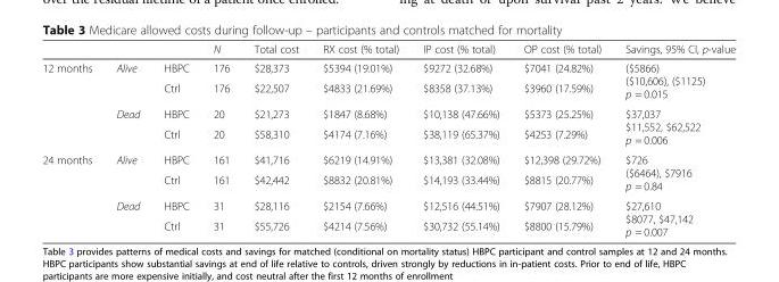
<table><thead><tr><td></td><td></td><td></td><td>N</td><td>Total cost</td><td>RX cost (% total)</td><td>IP cost (% total)</td><td>OP cost (% total)</td><td>Savings, 95% CI, p-value</td></tr></thead><tbody><tr><td rowspan="4">12 months</td><td rowspan="2">Alive</td><td>HBPC</td><td>176</td><td>$28,373</td><td>$5394 (19.01%)</td><td>$9272 (32.68%)</td><td>$7041 (24.82%)</td><td rowspan="2">($5866) ($10,606), ($1125) p = 0.015</td></tr><tr><td>Ctrl</td><td>176</td><td>$22,507</td><td>$4833 (21.69%)</td><td>$8358 (37.13%)</td><td>$3960 (17.59%)</td></tr><tr><td rowspan="2">Dead</td><td>HBPC</td><td>20</td><td>$21,273</td><td>$1847 (8.68%)</td><td>$10,138 (47.66%)</td><td>$5373 (25.25%)</td><td rowspan="2">$37,037 $11,552, $62,522 p = 0.006</td></tr><tr><td>Ctrl</td><td>20</td><td>$58,310</td><td>$4174 (7.16%)</td><td>$38,119 (65.37%)</td><td>$4253 (7.29%)</td></tr><tr><td rowspan="4">24 months</td><td rowspan="2">Alive</td><td>HBPC</td><td>161</td><td>$41,716</td><td>$6219 (14.91%)</td><td>$13,381 (32.08%)</td><td>$12,398 (29.72%)</td><td rowspan="2">$726 ($6464), $7916 p = 0.84</td></tr><tr><td>Ctrl</td><td>161</td><td>$42,442</td><td>$8832 (20.81%)</td><td>$14,193 (33.44%)</td><td>$8815 (20.77%)</td></tr><tr><td rowspan="2">Dead</td><td>HBPC</td><td>31</td><td>$28,116</td><td>$2154 (7.66%)</td><td>$12,516 (44.51%)</td><td>$7907 (28.12%)</td><td rowspan="2">$27,610 $8077, $47,142 p = 0.007</td></tr><tr><td>Ctrl</td><td>31</td><td>$55,726</td><td>$4214 (7.56%)</td><td>$30,732 (55.14%)</td><td>$8800 (15.79%)</td></tr></tbody></table>